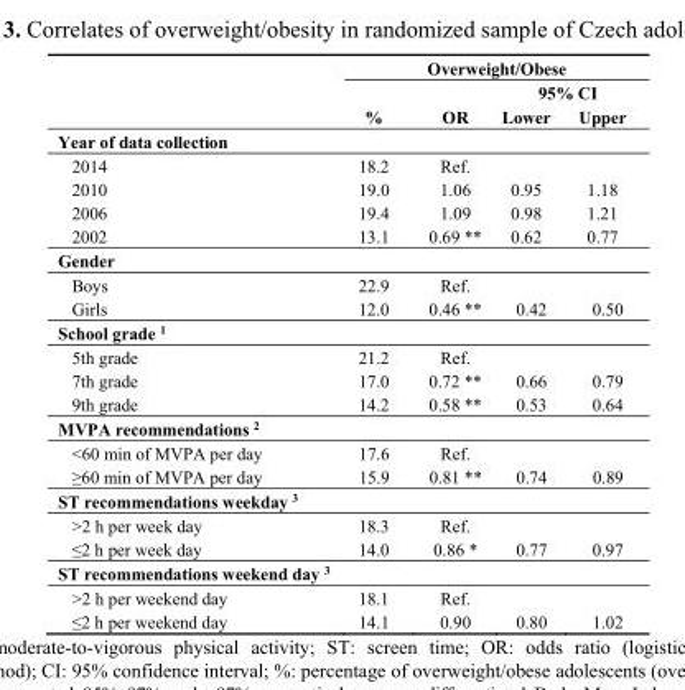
<table><thead><tr><td rowspan="3"></td><td colspan="4">Overweight/Obese</td></tr><tr><td rowspan="2">%</td><td rowspan="2">OR</td><td colspan="2">95% CI</td></tr><tr><td>Lower</td><td>Upper</td></tr></thead><tbody><tr><td colspan="5">Year of data collection</td></tr><tr><td>2014</td><td>18.2</td><td>Ref.</td><td></td><td></td></tr><tr><td>2010</td><td>19.0</td><td>1.06</td><td>0.95</td><td>1.18</td></tr><tr><td>2006</td><td>19.4</td><td>1.09</td><td>0.98</td><td>1.21</td></tr><tr><td>2002</td><td>13.1</td><td>0.69 **</td><td>0.62</td><td>0.77</td></tr><tr><td colspan="5">Gender</td></tr><tr><td>Boys</td><td>22.9</td><td>Ref.</td><td></td><td></td></tr><tr><td>Girls</td><td>12.0</td><td>0.46 **</td><td>0.42</td><td>0.50</td></tr><tr><td colspan="5">School grade <sup>1</sup></td></tr><tr><td>5th grade</td><td>21.2</td><td>Ref.</td><td></td><td></td></tr><tr><td>7th grade</td><td>17.0</td><td>0.72 **</td><td>0.66</td><td>0.79</td></tr><tr><td>9th grade</td><td>14.2</td><td>0.58 **</td><td>0.53</td><td>0.64</td></tr><tr><td colspan="5">MVPA recommendations <sup>2</sup></td></tr><tr><td>&lt;60 min of MVPA per day</td><td>17.6</td><td>Ref.</td><td></td><td></td></tr><tr><td>≥60 min of MVPA per day</td><td>15.9</td><td>0.81 **</td><td>0.74</td><td>0.89</td></tr><tr><td colspan="5">ST recommendations weekday <sup>3</sup></td></tr><tr><td>&gt;2 h per week day</td><td>18.3</td><td>Ref.</td><td></td><td></td></tr><tr><td>≤2 h per week day</td><td>14.0</td><td>0.86 *</td><td>0.77</td><td>0.97</td></tr><tr><td colspan="5">ST recommendations weekend day <sup>3</sup></td></tr><tr><td>&gt;2 h per weekend day</td><td>18.1</td><td>Ref.</td><td></td><td></td></tr><tr><td>≤2 h per weekend day</td><td>14.1</td><td>0.90</td><td>0.80</td><td>1.02</td></tr></tbody></table>